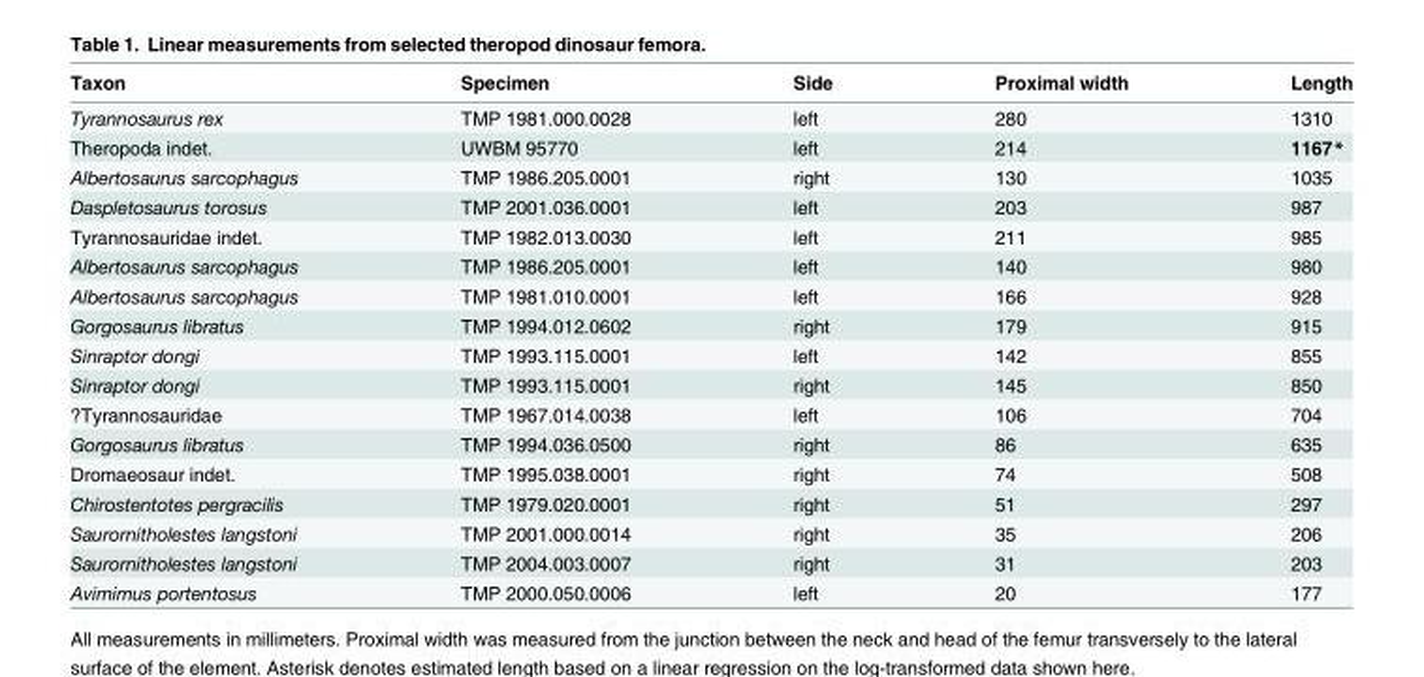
<table><thead><tr><td>Taxon</td><td>Specimen</td><td>Side</td><td>Proximal width</td><td>Length</td></tr></thead><tbody><tr><td>Tyrannosaurus rex</td><td>TMP 1981.000.0028</td><td>left</td><td>280</td><td>1310</td></tr><tr><td>Theropoda indet.</td><td>UWBM 95770</td><td>left</td><td>214</td><td>1167*</td></tr><tr><td>Albertosaurus sarcophagus</td><td>TMP 1986.205.0001</td><td>right</td><td>130</td><td>1035</td></tr><tr><td>Daspletosaurus torosus</td><td>TMP 2001.036.0001</td><td>left</td><td>203</td><td>987</td></tr><tr><td>Tyrannosauridae indet.</td><td>TMP 1982.013.0030</td><td>left</td><td>211</td><td>985</td></tr><tr><td>Albertosaurus sarcophagus</td><td>TMP 1986.205.0001</td><td>left</td><td>140</td><td>980</td></tr><tr><td>Albertosaurus sarcophagus</td><td>TMP 1981.010.0001</td><td>left</td><td>166</td><td>928</td></tr><tr><td>Gorgosaurus libratus</td><td>TMP 1994.012.0602</td><td>right</td><td>179</td><td>915</td></tr><tr><td>Sinraptor dongi</td><td>TMP 1993.115.0001</td><td>left</td><td>142</td><td>855</td></tr><tr><td>Sinraptor dongi</td><td>TMP 1993.115.0001</td><td>right</td><td>145</td><td>850</td></tr><tr><td>?Tyrannosauridae</td><td>TMP 1967.014.0038</td><td>left</td><td>106</td><td>704</td></tr><tr><td>Gorgosaurus libratus</td><td>TMP 1994.036.0500</td><td>right</td><td>86</td><td>635</td></tr><tr><td>Dromaeosaur indet.</td><td>TMP 1995.038.0001</td><td>right</td><td>74</td><td>508</td></tr><tr><td>Chirostentotes pergracilis</td><td>TMP 1979.020.0001</td><td>right</td><td>51</td><td>297</td></tr><tr><td>Saurornitholestes langstoni</td><td>TMP 2001.000.0014</td><td>right</td><td>35</td><td>206</td></tr><tr><td>Saurornitholestes langstoni</td><td>TMP 2004.003.0007</td><td>right</td><td>31</td><td>203</td></tr><tr><td>Avimimus portentosus</td><td>TMP 2000.050.0006</td><td>left</td><td>20</td><td>177</td></tr></tbody></table>